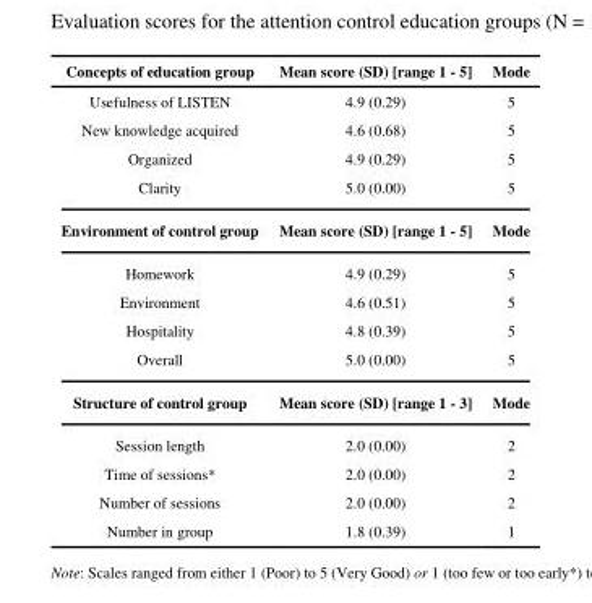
<table><thead><tr><td>Concepts of education group</td><td>Mean score (SD) [range 1 - 5]</td><td>Mode</td></tr></thead><tbody><tr><td>Usefulness of LISTEN</td><td>4.9 (0.29)</td><td>5</td></tr><tr><td>New knowledge acquired</td><td>4.6 (0.68)</td><td>5</td></tr><tr><td>Organized</td><td>4.9 (0.29)</td><td>5</td></tr><tr><td>Clarity</td><td>5.0 (0.00)</td><td>5</td></tr><tr><td>Environment of control group</td><td>Mean score (SD) [range 1 - 5]</td><td>Mode</td></tr><tr><td>Homework</td><td>4.9 (0.29)</td><td>5</td></tr><tr><td>Environment</td><td>4.6 (0.51)</td><td>5</td></tr><tr><td>Hospitality</td><td>4.8 (0.39)</td><td>5</td></tr><tr><td>Overall</td><td>5.0 (0.00)</td><td>5</td></tr><tr><td>Structure of control group</td><td>Mean score (SD) [range 1 - 3]</td><td>Mode</td></tr><tr><td>Session length</td><td>2.0 (0.00)</td><td>2</td></tr><tr><td>Time of sessions*</td><td>2.0 (0.00)</td><td>2</td></tr><tr><td>Number of sessions</td><td>2.0 (0.00)</td><td>2</td></tr><tr><td>Number in group</td><td>1.8 (0.39)</td><td>1</td></tr></tbody></table>